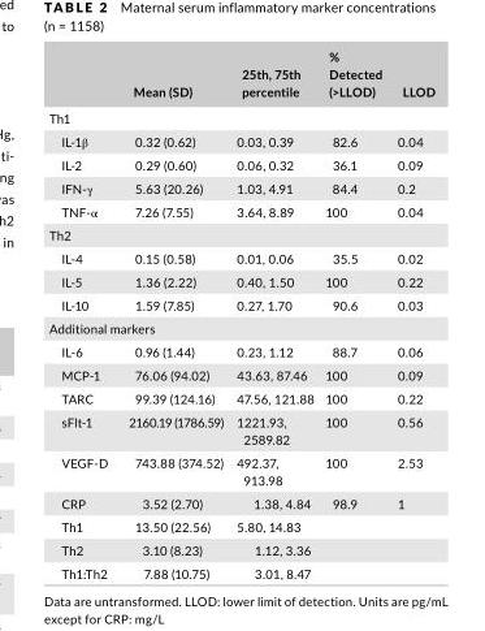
<table><thead><tr><td></td><td>Mean (SD)</td><td>25th, 75th percentile</td><td>% Detected (&gt;LLOD)</td><td>LLOD</td></tr></thead><tbody><tr><td colspan="5">Th1</td></tr><tr><td>IL- 1β</td><td>0.32 (0.62)</td><td>0.03, 0.39</td><td>82.6</td><td>0.04</td></tr><tr><td>IL- 2</td><td>0.29 (0.60)</td><td>0.06, 0.32</td><td>36.1</td><td>0.09</td></tr><tr><td>IFN- γ</td><td>5.63 (20.26)</td><td>1.03, 4.91</td><td>84.4</td><td>0.2</td></tr><tr><td>TNF- α</td><td>7.26 (7.55)</td><td>3.64, 8.89</td><td>100</td><td>0.04</td></tr><tr><td colspan="5">Th2</td></tr><tr><td>IL- 4</td><td>0.15 (0.58)</td><td>0.01, 0.06</td><td>35.5</td><td>0.02</td></tr><tr><td>IL- 5</td><td>1.36 (2.22)</td><td>0.40, 1.50</td><td>100</td><td>0.22</td></tr><tr><td>IL- 10</td><td>1.59 (7.85)</td><td>0.27, 1.70</td><td>90.6</td><td>0.03</td></tr><tr><td colspan="5">Additional markers</td></tr><tr><td>IL- 6</td><td>0.96 (1.44)</td><td>0.23, 1.12</td><td>88.7</td><td>0.06</td></tr><tr><td>MCP- 1</td><td>76.06 (94.02)</td><td>43.63, 87.46</td><td>100</td><td>0.09</td></tr><tr><td>TARC</td><td>99.39 (124.16)</td><td>47.56, 121.88</td><td>100</td><td>0.22</td></tr><tr><td>sFlt- 1</td><td>2160.19 (1786.59)</td><td>1221.93, 2589.82</td><td>100</td><td>0.56</td></tr><tr><td>VEGF-D</td><td>743.88 (374.52)</td><td>492.37, 913.98</td><td>100</td><td>2.53</td></tr><tr><td>CRP</td><td>3.52 (2.70)</td><td>1.38, 4.84</td><td>98.9</td><td>1</td></tr><tr><td>Th1</td><td>13.50 (22.56)</td><td>5.80, 14.83</td><td></td><td></td></tr><tr><td>Th2</td><td>3.10 (8.23)</td><td>1.12, 3.36</td><td></td><td></td></tr><tr><td>Th1:Th2</td><td>7.88 (10.75)</td><td>3.01, 8.47</td><td></td><td></td></tr></tbody></table>